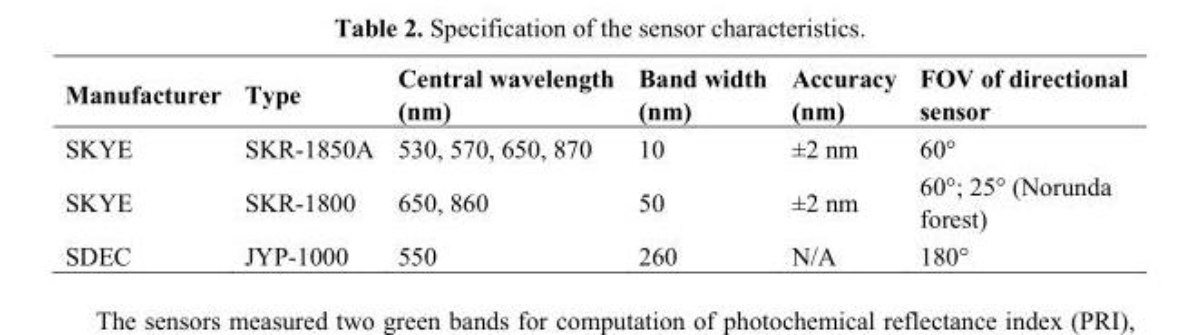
<table><thead><tr><td>Manufacturer</td><td>Type</td><td>Central wavelength (nm)</td><td>Band width (nm)</td><td>Accuracy (nm)</td><td>FOV of directional sensor</td></tr></thead><tbody><tr><td>SKYE</td><td>SKR-1850A</td><td>530, 570, 650, 870</td><td>10</td><td>±2 nm</td><td>60°</td></tr><tr><td>SKYE</td><td>SKR-1800</td><td>650, 860</td><td>50</td><td>±2 nm</td><td>60°; 25° (Norunda forest)</td></tr><tr><td>SDEC</td><td>JYP-1000</td><td>550</td><td>260</td><td>N/A</td><td>180°</td></tr></tbody></table>